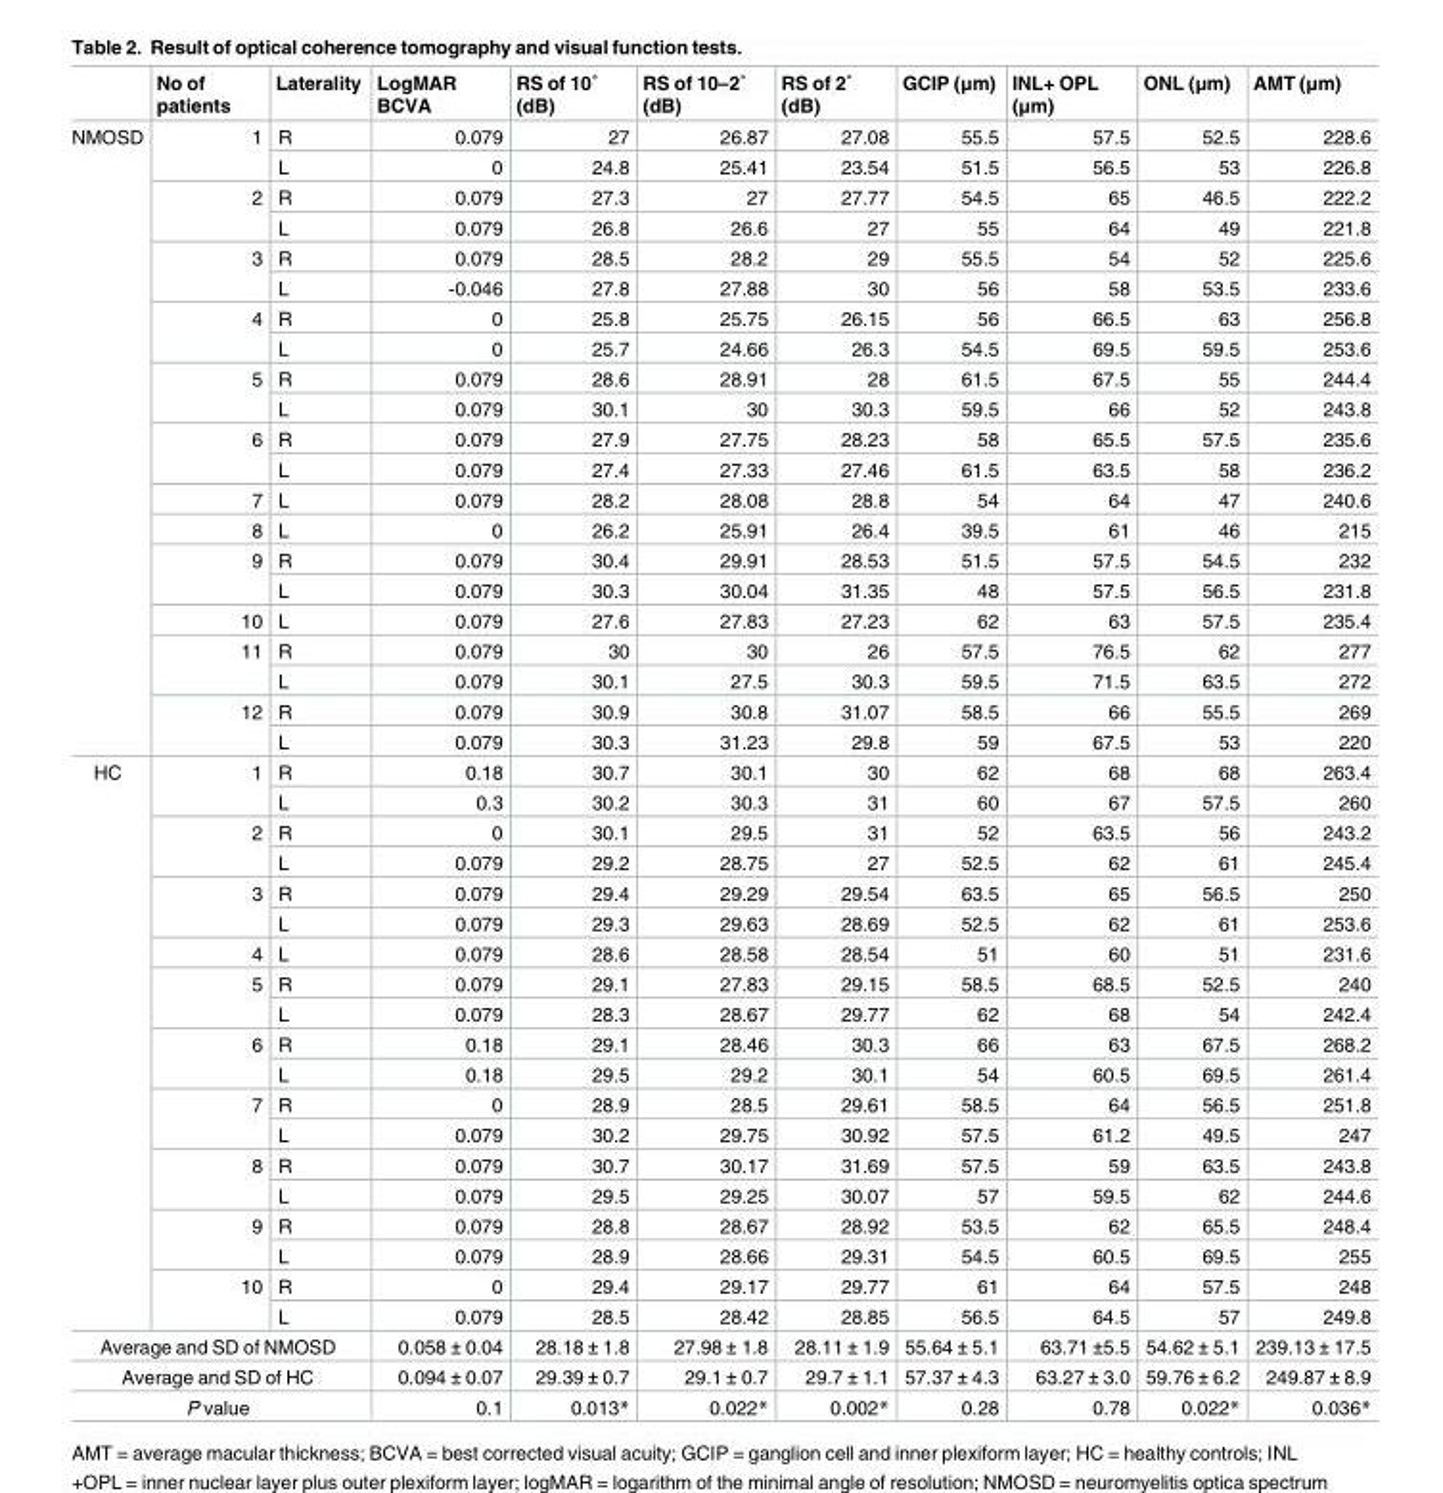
<table><thead><tr><td></td><td>No of patients</td><td>Laterality</td><td>LogMAR BCVA</td><td>RS of 10˚ (dB)</td><td>RS of 10–2˚ (dB)</td><td>RS of 2˚ (dB)</td><td>GCIP (μm)</td><td>INL+ OPL (μm)</td><td>ONL (μm)</td><td>AMT (μm)</td></tr></thead><tbody><tr><td rowspan="21">NMOSD</td><td rowspan="2">1</td><td>R</td><td>0.079</td><td>27</td><td>26.87</td><td>27.08</td><td>55.5</td><td>57.5</td><td>52.5</td><td>228.6</td></tr><tr><td>L</td><td>0</td><td>24.8</td><td>25.41</td><td>23.54</td><td>51.5</td><td>56.5</td><td>53</td><td>226.8</td></tr><tr><td rowspan="2">2</td><td>R</td><td>0.079</td><td>27.3</td><td>27</td><td>27.77</td><td>54.5</td><td>65</td><td>46.5</td><td>222.2</td></tr><tr><td>L</td><td>0.079</td><td>26.8</td><td>26.6</td><td>27</td><td>55</td><td>64</td><td>49</td><td>221.8</td></tr><tr><td rowspan="2">3</td><td>R</td><td>0.079</td><td>28.5</td><td>28.2</td><td>29</td><td>55.5</td><td>54</td><td>52</td><td>225.6</td></tr><tr><td>L</td><td>-0.046</td><td>27.8</td><td>27.88</td><td>30</td><td>56</td><td>58</td><td>53.5</td><td>233.6</td></tr><tr><td rowspan="2">4</td><td>R</td><td>0</td><td>25.8</td><td>25.75</td><td>26.15</td><td>56</td><td>66.5</td><td>63</td><td>256.8</td></tr><tr><td>L</td><td>0</td><td>25.7</td><td>24.66</td><td>26.3</td><td>54.5</td><td>69.5</td><td>59.5</td><td>253.6</td></tr><tr><td rowspan="2">5</td><td>R</td><td>0.079</td><td>28.6</td><td>28.91</td><td>28</td><td>61.5</td><td>67.5</td><td>55</td><td>244.4</td></tr><tr><td>L</td><td>0.079</td><td>30.1</td><td>30</td><td>30.3</td><td>59.5</td><td>66</td><td>52</td><td>243.8</td></tr><tr><td rowspan="2">6</td><td>R</td><td>0.079</td><td>27.9</td><td>27.75</td><td>28.23</td><td>58</td><td>65.5</td><td>57.5</td><td>235.6</td></tr><tr><td>L</td><td>0.079</td><td>27.4</td><td>27.33</td><td>27.46</td><td>61.5</td><td>63.5</td><td>58</td><td>236.2</td></tr><tr><td>7</td><td>L</td><td>0.079</td><td>28.2</td><td>28.08</td><td>28.8</td><td>54</td><td>64</td><td>47</td><td>240.6</td></tr><tr><td>8</td><td>L</td><td>0</td><td>26.2</td><td>25.91</td><td>26.4</td><td>39.5</td><td>61</td><td>46</td><td>215</td></tr><tr><td rowspan="2">9</td><td>R</td><td>0.079</td><td>30.4</td><td>29.91</td><td>28.53</td><td>51.5</td><td>57.5</td><td>54.5</td><td>232</td></tr><tr><td>L</td><td>0.079</td><td>30.3</td><td>30.04</td><td>31.35</td><td>48</td><td>57.5</td><td>56.5</td><td>231.8</td></tr><tr><td>10</td><td>L</td><td>0.079</td><td>27.6</td><td>27.83</td><td>27.23</td><td>62</td><td>63</td><td>57.5</td><td>235.4</td></tr><tr><td rowspan="2">11</td><td>R</td><td>0.079</td><td>30</td><td>30</td><td>26</td><td>57.5</td><td>76.5</td><td>62</td><td>277</td></tr><tr><td>L</td><td>0.079</td><td>30.1</td><td>27.5</td><td>30.3</td><td>59.5</td><td>71.5</td><td>63.5</td><td>272</td></tr><tr><td rowspan="2">12</td><td>R</td><td>0.079</td><td>30.9</td><td>30.8</td><td>31.07</td><td>58.5</td><td>66</td><td>55.5</td><td>269</td></tr><tr><td>L</td><td>0.079</td><td>30.3</td><td>31.23</td><td>29.8</td><td>59</td><td>67.5</td><td>53</td><td>220</td></tr><tr><td rowspan="19">HC</td><td rowspan="2">1</td><td>R</td><td>0.18</td><td>30.7</td><td>30.1</td><td>30</td><td>62</td><td>68</td><td>68</td><td>263.4</td></tr><tr><td>L</td><td>0.3</td><td>30.2</td><td>30.3</td><td>31</td><td>60</td><td>67</td><td>57.5</td><td>260</td></tr><tr><td rowspan="2">2</td><td>R</td><td>0</td><td>30.1</td><td>29.5</td><td>31</td><td>52</td><td>63.5</td><td>56</td><td>243.2</td></tr><tr><td>L</td><td>0.079</td><td>29.2</td><td>28.75</td><td>27</td><td>52.5</td><td>62</td><td>61</td><td>245.4</td></tr><tr><td rowspan="2">3</td><td>R</td><td>0.079</td><td>29.4</td><td>29.29</td><td>29.54</td><td>63.5</td><td>65</td><td>56.5</td><td>250</td></tr><tr><td>L</td><td>0.079</td><td>29.3</td><td>29.63</td><td>28.69</td><td>52.5</td><td>62</td><td>61</td><td>253.6</td></tr><tr><td>4</td><td>L</td><td>0.079</td><td>28.6</td><td>28.58</td><td>28.54</td><td>51</td><td>60</td><td>51</td><td>231.6</td></tr><tr><td rowspan="2">5</td><td>R</td><td>0.079</td><td>29.1</td><td>27.83</td><td>29.15</td><td>58.5</td><td>68.5</td><td>52.5</td><td>240</td></tr><tr><td>L</td><td>0.079</td><td>28.3</td><td>28.67</td><td>29.77</td><td>62</td><td>68</td><td>54</td><td>242.4</td></tr><tr><td rowspan="2">6</td><td>R</td><td>0.18</td><td>29.1</td><td>28.46</td><td>30.3</td><td>66</td><td>63</td><td>67.5</td><td>268.2</td></tr><tr><td>L</td><td>0.18</td><td>29.5</td><td>29.2</td><td>30.1</td><td>54</td><td>60.5</td><td>69.5</td><td>261.4</td></tr><tr><td rowspan="2">7</td><td>R</td><td>0</td><td>28.9</td><td>28.5</td><td>29.61</td><td>58.5</td><td>64</td><td>56.5</td><td>251.8</td></tr><tr><td>L</td><td>0.079</td><td>30.2</td><td>29.75</td><td>30.92</td><td>57.5</td><td>61.2</td><td>49.5</td><td>247</td></tr><tr><td rowspan="2">8</td><td>R</td><td>0.079</td><td>30.7</td><td>30.17</td><td>31.69</td><td>57.5</td><td>59</td><td>63.5</td><td>243.8</td></tr><tr><td>L</td><td>0.079</td><td>29.5</td><td>29.25</td><td>30.07</td><td>57</td><td>59.5</td><td>62</td><td>244.6</td></tr><tr><td rowspan="2">9</td><td>R</td><td>0.079</td><td>28.8</td><td>28.67</td><td>28.92</td><td>53.5</td><td>62</td><td>65.5</td><td>248.4</td></tr><tr><td>L</td><td>0.079</td><td>28.9</td><td>28.66</td><td>29.31</td><td>54.5</td><td>60.5</td><td>69.5</td><td>255</td></tr><tr><td rowspan="2">10</td><td>R</td><td>0</td><td>29.4</td><td>29.17</td><td>29.77</td><td>61</td><td>64</td><td>57.5</td><td>248</td></tr><tr><td>L</td><td>0.079</td><td>28.5</td><td>28.42</td><td>28.85</td><td>56.5</td><td>64.5</td><td>57</td><td>249.8</td></tr><tr><td colspan="3">Average and SD of NMOSD</td><td>0.058 ± 0.04</td><td>28.18 ± 1.8</td><td>27.98 ± 1.8</td><td>28.11 ± 1.9</td><td>55.64 ± 5.1</td><td>63.71 ±5.5</td><td>54.62 ± 5.1</td><td>239.13 ± 17.5</td></tr><tr><td colspan="3">Average and SD of HC</td><td>0.094 ± 0.07</td><td>29.39 ± 0.7</td><td>29.1 ± 0.7</td><td>29.7 ± 1.1</td><td>57.37 ± 4.3</td><td>63.27 ± 3.0</td><td>59.76 ± 6.2</td><td>249.87 ± 8.9</td></tr><tr><td colspan="3">P value</td><td>0.1</td><td>0.013*</td><td>0.022*</td><td>0.002*</td><td>0.28</td><td>0.78</td><td>0.022*</td><td>0.036*</td></tr></tbody></table>